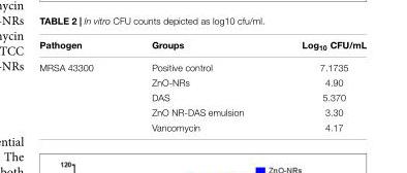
<table><thead><tr><td>Pathogen</td><td>Groups</td><td>Log<sub>10</sub> CFU/mL</td></tr></thead><tbody><tr><td rowspan="5">MRSA 43300</td><td>Positive control</td><td>7.1735</td></tr><tr><td>ZnO-NRs</td><td>4.90</td></tr><tr><td>DAS</td><td>5.370</td></tr><tr><td>ZnO NR-DAS emulsion</td><td>3.30</td></tr><tr><td>Vancomycin</td><td>4.17</td></tr></tbody></table>